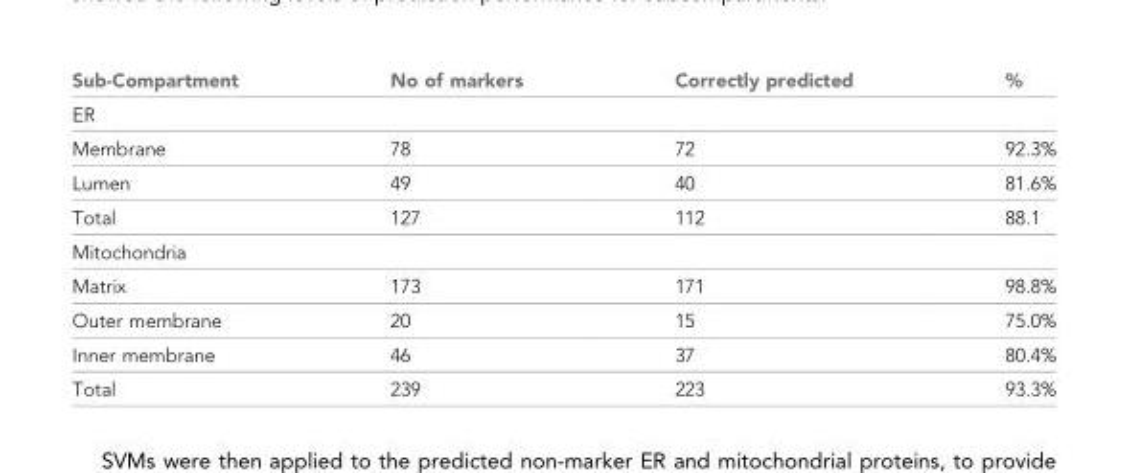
<table><thead><tr><td>Sub-Compartment</td><td>No of markers</td><td>Correctly predicted</td><td>%</td></tr></thead><tbody><tr><td colspan="4">ER</td></tr><tr><td>Membrane</td><td>78</td><td>72</td><td>92.3%</td></tr><tr><td>Lumen</td><td>49</td><td>40</td><td>81.6%</td></tr><tr><td>Total</td><td>127</td><td>112</td><td>88.1</td></tr><tr><td colspan="4">Mitochondria</td></tr><tr><td>Matrix</td><td>173</td><td>171</td><td>98.8%</td></tr><tr><td>Outer membrane</td><td>20</td><td>15</td><td>75.0%</td></tr><tr><td>Inner membrane</td><td>46</td><td>37</td><td>80.4%</td></tr><tr><td>Total</td><td>239</td><td>223</td><td>93.3%</td></tr></tbody></table>